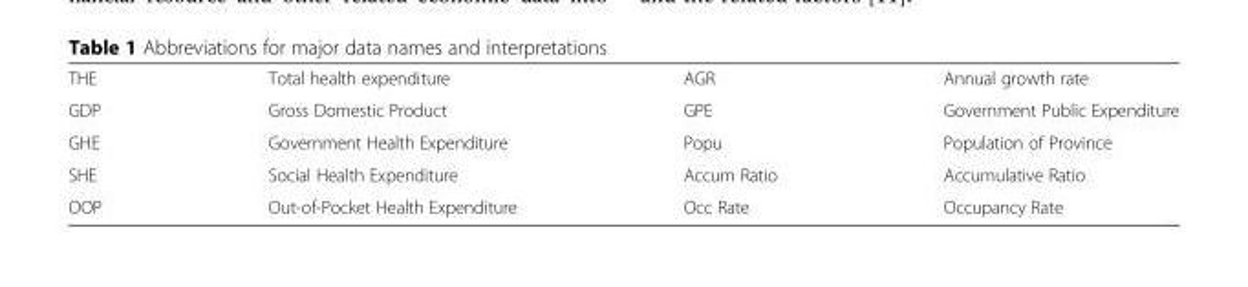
<table><tbody><tr><td>THE</td><td>Total health expenditure</td><td>AGR</td><td>Annual growth rate</td></tr><tr><td>GDP</td><td>Gross Domestic Product</td><td>GPE</td><td>Government Public Expenditure</td></tr><tr><td>GHE</td><td>Government Health Expenditure</td><td>Popu</td><td>Population of Province</td></tr><tr><td>SHE</td><td>Social Health Expenditure</td><td>Accum Ratio</td><td>Accumulative Ratio</td></tr><tr><td>OOP</td><td>Out-of-Pocket Health Expenditure</td><td>Occ Rate</td><td>Occupancy Rate</td></tr></tbody></table>